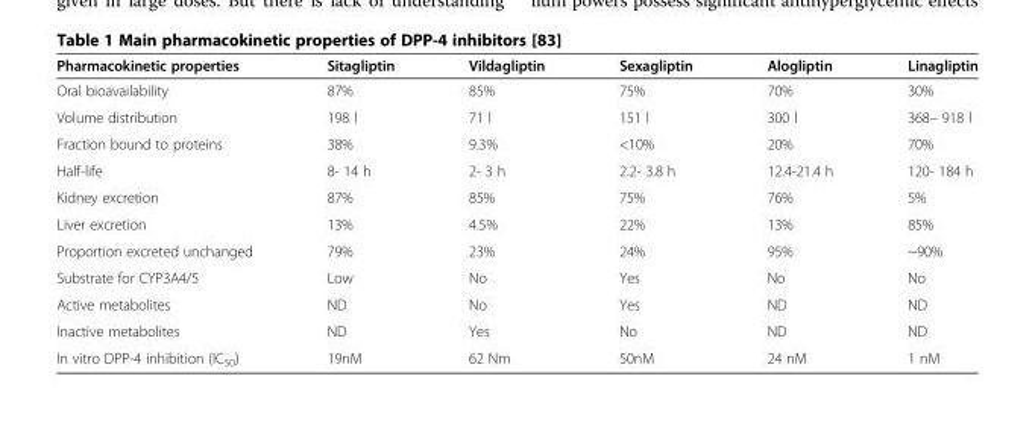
<table><thead><tr><td>Pharmacokinetic properties</td><td>Sitagliptin</td><td>Vildagliptin</td><td>Sexagliptin</td><td>Alogliptin</td><td>Linagliptin</td></tr></thead><tbody><tr><td>Oral bioavailability</td><td>87%</td><td>85%</td><td>75%</td><td>70%</td><td>30%</td></tr><tr><td>Volume distribution</td><td>198 l</td><td>71 l</td><td>151 l</td><td>300 l</td><td>368– 918 l</td></tr><tr><td>Fraction bound to proteins</td><td>38%</td><td>9.3%</td><td>&lt;10%</td><td>20%</td><td>70%</td></tr><tr><td>Half-life</td><td>8- 14 h</td><td>2- 3 h</td><td>2.2- 3.8 h</td><td>12.4-21.4 h</td><td>120- 184 h</td></tr><tr><td>Kidney excretion</td><td>87%</td><td>85%</td><td>75%</td><td>76%</td><td>5%</td></tr><tr><td>Liver excretion</td><td>13%</td><td>4.5%</td><td>22%</td><td>13%</td><td>85%</td></tr><tr><td>Proportion excreted unchanged</td><td>79%</td><td>23%</td><td>24%</td><td>95%</td><td>~90%</td></tr><tr><td>Substrate for CYP3A4/5</td><td>Low</td><td>No</td><td>Yes</td><td>No</td><td>No</td></tr><tr><td>Active metabolites</td><td>ND</td><td>No</td><td>Yes</td><td>ND</td><td>ND</td></tr><tr><td>Inactive metabolites</td><td>ND</td><td>Yes</td><td>No</td><td>ND</td><td>ND</td></tr><tr><td>In vitro DPP-4 inhibition (IC50)</td><td>19nM</td><td>62 Nm</td><td>50nM</td><td>24 nM</td><td>1 nM</td></tr></tbody></table>